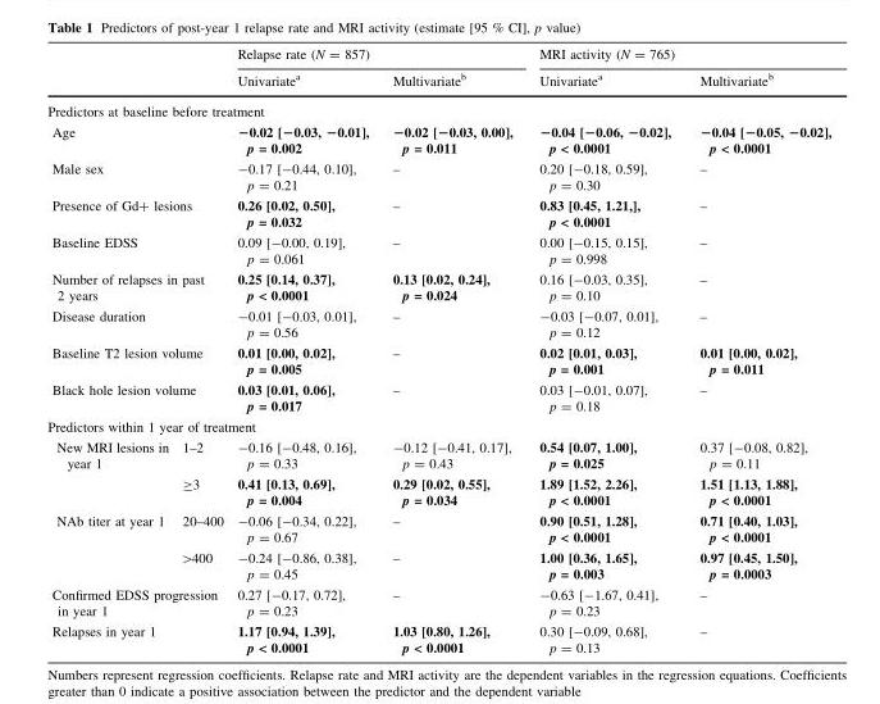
<table><thead><tr><td rowspan="2"></td><td rowspan="2"></td><td colspan="2">Relapse rate (N = 857)</td><td colspan="2">MRI activity (N = 765)</td></tr><tr><td>Univariate<sup>a</sup></td><td>Multivariate<sup>b</sup></td><td>Univariate<sup>a</sup></td><td>Multivariate<sup>b</sup></td></tr></thead><tbody><tr><td colspan="6">Predictors at baseline before treatment</td></tr><tr><td colspan="2">Age</td><td>−0.02 [−0.03, −0.01], p = 0.002</td><td>−0.02 [−0.03, 0.00], p = 0.011</td><td>−0.04 [−0.06, −0.02], p &lt; 0.0001</td><td>−0.04 [−0.05, −0.02], p &lt; 0.0001</td></tr><tr><td colspan="2">Male sex</td><td>-0.17 [-0.44, 0.10], p = 0.21</td><td>–</td><td>0.20 [-0.18, 0.59], p = 0.30</td><td>–</td></tr><tr><td colspan="2">Presence of Gd+ lesions</td><td>0.26 [0.02, 0.50], p = 0.032</td><td>–</td><td>0.83 [0.45, 1.21,], p &lt; 0.0001</td><td>–</td></tr><tr><td colspan="2">Baseline EDSS</td><td>0.09 [-0.00, 0.19], p = 0.061</td><td>–</td><td>0.00 [-0.15, 0.15], p = 0.998</td><td>–</td></tr><tr><td colspan="2">Number of relapses in past 2 years</td><td>0.25 [0.14, 0.37], p &lt; 0.0001</td><td>0.13 [0.02, 0.24], p = 0.024</td><td>0.16 [-0.03, 0.35], p = 0.10</td><td>–</td></tr><tr><td colspan="2">Disease duration</td><td>-0.01 [-0.03, 0.01], p = 0.56</td><td>–</td><td>-0.03 [-0.07, 0.01], p = 0.12</td><td>–</td></tr><tr><td colspan="2">Baseline T2 lesion volume</td><td>0.01 [0.00, 0.02], p = 0.005</td><td>–</td><td>0.02 [0.01, 0.03], p = 0.001</td><td>0.01 [0.00, 0.02], p = 0.011</td></tr><tr><td colspan="2">Black hole lesion volume</td><td>0.03 [0.01, 0.06], p = 0.017</td><td>–</td><td>0.03 [-0.01, 0.07], p = 0.18</td><td>–</td></tr><tr><td colspan="6">Predictors within 1 year of treatment</td></tr><tr><td rowspan="2">New MRI lesions in year 1</td><td>1–2</td><td>-0.16 [-0.48, 0.16], p = 0.33</td><td>-0.12 [-0.41, 0.17], p = 0.43</td><td>0.54 [0.07, 1.00], p = 0.025</td><td>0.37 [-0.08, 0.82], p = 0.11</td></tr><tr><td>≥3</td><td>0.41 [0.13, 0.69], p = 0.004</td><td>0.29 [0.02, 0.55], p = 0.034</td><td>1.89 [1.52, 2.26], p &lt; 0.0001</td><td>1.51 [1.13, 1.88], p &lt; 0.0001</td></tr><tr><td rowspan="2">NAb titer at year 1</td><td>20–400</td><td>-0.06 [-0.34, 0.22], p = 0.67</td><td>–</td><td>0.90 [0.51, 1.28], p &lt; 0.0001</td><td>0.71 [0.40, 1.03], p &lt; 0.0001</td></tr><tr><td>&gt;400</td><td>-0.24 [-0.86, 0.38], p = 0.45</td><td>–</td><td>1.00 [0.36, 1.65], p = 0.003</td><td>0.97 [0.45, 1.50], p = 0.0003</td></tr><tr><td colspan="2">Confirmed EDSS progression in year 1</td><td>0.27 [-0.17, 0.72], p = 0.23</td><td>–</td><td>-0.63 [-1.67, 0.41], p = 0.23</td><td>–</td></tr><tr><td colspan="2">Relapses in year 1</td><td>1.17 [0.94, 1.39], p &lt; 0.0001</td><td>1.03 [0.80, 1.26], p &lt; 0.0001</td><td>0.30 [-0.09, 0.68], p = 0.13</td><td>–</td></tr></tbody></table>